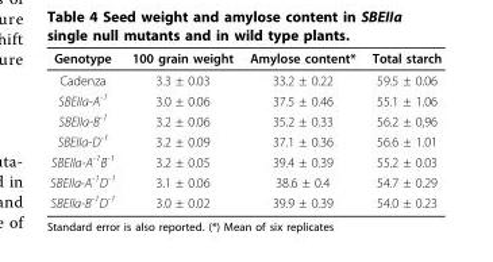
<table><thead><tr><td>Genotype</td><td>100 grain weight</td><td>Amylose content*</td><td>Total starch</td></tr></thead><tbody><tr><td>Cadenza</td><td>3.3 ± 0.03</td><td>33.2 ± 0.22</td><td>59.5 ± 0.06</td></tr><tr><td>SBEIIa-A<sup>-1</sup></td><td>3.0 ± 0.06</td><td>37.5 ± 0.46</td><td>55.1 ± 1.06</td></tr><tr><td>SBEIIa-B<sup>-1</sup></td><td>3.2 ± 0.06</td><td>35.2 ± 0.33</td><td>56.2 ± 0,96</td></tr><tr><td>SBEIIa-D<sup>-1</sup></td><td>3.2 ± 0.09</td><td>37.1 ± 0.36</td><td>56.6 ± 1.01</td></tr><tr><td>SBEIIa-A<sup>-1</sup>B<sup>-1</sup></td><td>3.2 ± 0.05</td><td>39.4 ± 0.39</td><td>55.2 ± 0.03</td></tr><tr><td>SBEIIa-A<sup>-1</sup>D<sup>-1</sup></td><td>3.1 ± 0.06</td><td>38.6 ± 0.4</td><td>54.7 ± 0.29</td></tr><tr><td>SBEIIa-B<sup>-1</sup>D<sup>-1</sup></td><td>3.0 ± 0.02</td><td>39.9 ± 0.39</td><td>54.0 ± 0.23</td></tr></tbody></table>